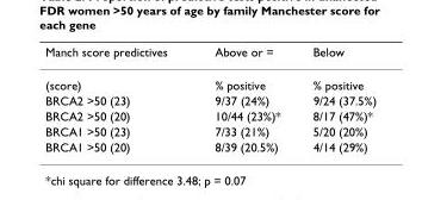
<table><thead><tr><td>Manch score predictives</td><td>Above or =</td><td>Below</td></tr></thead><tbody><tr><td>(score)</td><td>% positive</td><td>% positive</td></tr><tr><td>BRCA2 &gt;50 (23)</td><td>9/37 (24%)</td><td>9/24 (37.5%)</td></tr><tr><td>BRCA2 &gt;50 (20)</td><td>10/44 (23%)*</td><td>8/17 (47%)*</td></tr><tr><td>BRCA1 &gt;50 (23)</td><td>7/33 (21%)</td><td>5/20 (20%)</td></tr><tr><td>BRCA1 &gt;50 (20)</td><td>8/39 (20.5%)</td><td>4/14 (29%)</td></tr></tbody></table>